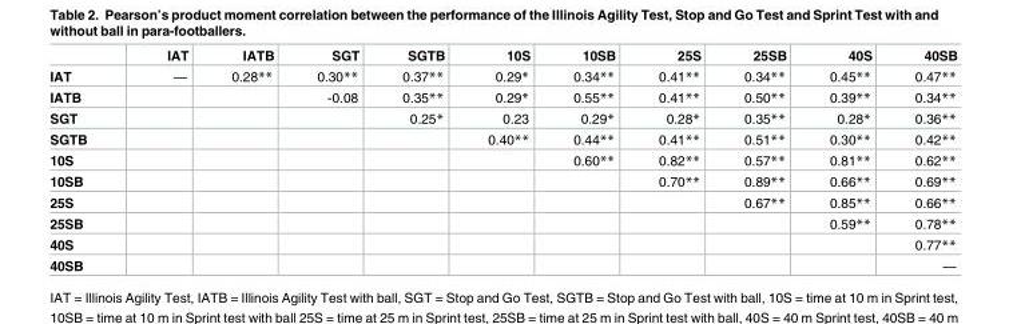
<table><thead><tr><td></td><td>IAT</td><td>IATB</td><td>SGT</td><td>SGTB</td><td>10S</td><td>10SB</td><td>25S</td><td>25SB</td><td>40S</td><td>40SB</td></tr></thead><tbody><tr><td>IAT</td><td>—</td><td>0.28**</td><td>0.30**</td><td>0.37**</td><td>0.29*</td><td>0.34**</td><td>0.41**</td><td>0.34**</td><td>0.45**</td><td>0.47**</td></tr><tr><td>IATB</td><td></td><td></td><td>-0.08</td><td>0.35**</td><td>0.29*</td><td>0.55**</td><td>0.41**</td><td>0.50**</td><td>0.39**</td><td>0.34**</td></tr><tr><td>SGT</td><td></td><td></td><td></td><td>0.25*</td><td>0.23</td><td>0.29*</td><td>0.28*</td><td>0.35**</td><td>0.28*</td><td>0.36**</td></tr><tr><td>SGTB</td><td></td><td></td><td></td><td></td><td>0.40**</td><td>0.44**</td><td>0.41**</td><td>0.51**</td><td>0.30**</td><td>0.42**</td></tr><tr><td>10S</td><td></td><td></td><td></td><td></td><td></td><td>0.60**</td><td>0.82**</td><td>0.57**</td><td>0.81**</td><td>0.62**</td></tr><tr><td>10SB</td><td></td><td></td><td></td><td></td><td></td><td></td><td>0.70**</td><td>0.89**</td><td>0.66**</td><td>0.69**</td></tr><tr><td>25S</td><td></td><td></td><td></td><td></td><td></td><td></td><td></td><td>0.67**</td><td>0.85**</td><td>0.66**</td></tr><tr><td>25SB</td><td></td><td></td><td></td><td></td><td></td><td></td><td></td><td></td><td>0.59**</td><td>0.78**</td></tr><tr><td>40S</td><td></td><td></td><td></td><td></td><td></td><td></td><td></td><td></td><td></td><td>0.77**</td></tr><tr><td>40SB</td><td></td><td></td><td></td><td></td><td></td><td></td><td></td><td></td><td></td><td>—</td></tr></tbody></table>